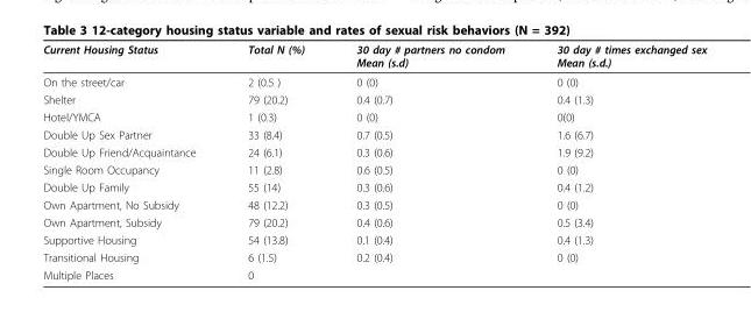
<table><thead><tr><td>Current Housing Status</td><td>Total N (%)</td><td>30 day # partners no condom Mean (s.d)</td><td>30 day # times exchanged sex Mean (s.d.)</td></tr></thead><tbody><tr><td>On the street/car</td><td>2 (0.5 )</td><td>0 (0)</td><td>0 (0)</td></tr><tr><td>Shelter</td><td>79 (20.2)</td><td>0.4 (0.7)</td><td>0.4 (1.3)</td></tr><tr><td>Hotel/YMCA</td><td>1 (0.3)</td><td>0 (0)</td><td>0(0)</td></tr><tr><td>Double Up Sex Partner</td><td>33 (8.4)</td><td>0.7 (0.5)</td><td>1.6 (6.7)</td></tr><tr><td>Double Up Friend/Acquaintance</td><td>24 (6.1)</td><td>0.3 (0.6)</td><td>1.9 (9.2)</td></tr><tr><td>Single Room Occupancy</td><td>11 (2.8)</td><td>0.6 (0.5)</td><td>0 (0)</td></tr><tr><td>Double Up Family</td><td>55 (14)</td><td>0.3 (0.6)</td><td>0.4 (1.2)</td></tr><tr><td>Own Apartment, No Subsidy</td><td>48 (12.2)</td><td>0.3 (0.5)</td><td>0 (0)</td></tr><tr><td>Own Apartment, Subsidy</td><td>79 (20.2)</td><td>0.4 (0.6)</td><td>0.5 (3.4)</td></tr><tr><td>Supportive Housing</td><td>54 (13.8)</td><td>0.1 (0.4)</td><td>0.4 (1.3)</td></tr><tr><td>Transitional Housing</td><td>6 (1.5)</td><td>0.2 (0.4)</td><td>0 (0)</td></tr><tr><td>Multiple Places</td><td>0</td><td></td><td></td></tr></tbody></table>